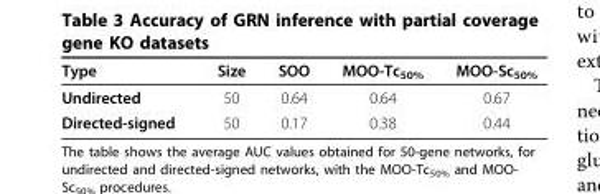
<table><thead><tr><td>Type</td><td>Size</td><td>SOO</td><td>MOO-Tc<sub>50%</sub></td><td>MOO-Sc<sub>50%</sub></td></tr></thead><tbody><tr><td>Undirected</td><td>50</td><td>0.64</td><td>0.64</td><td>0.67</td></tr><tr><td>Directed-signed</td><td>50</td><td>0.17</td><td>0.38</td><td>0.44</td></tr></tbody></table>